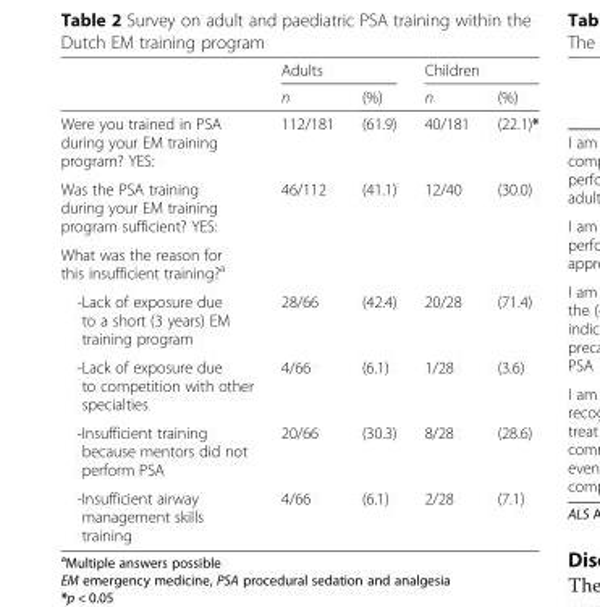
<table><thead><tr><td rowspan="2"></td><td colspan="2">Adults</td><td colspan="2">Children</td></tr><tr><td>n</td><td>(%)</td><td>n</td><td>(%)</td></tr></thead><tbody><tr><td>Were you trained in PSA during your EM training program? YES:</td><td>112/181</td><td>(61.9)</td><td>40/181</td><td>(22.1)*</td></tr><tr><td>Was the PSA training during your EM training program sufficient? YES:</td><td>46/112</td><td>(41.1)</td><td>12/40</td><td>(30.0)</td></tr><tr><td colspan="5">What was the reason for this insufficient training?<sup>a</sup></td></tr><tr><td>-Lack of exposure due to a short (3 years) EM training program</td><td>28/66</td><td>(42.4)</td><td>20/28</td><td>(71.4)</td></tr><tr><td>-Lack of exposure due to competition with other specialties</td><td>4/66</td><td>(6.1)</td><td>1/28</td><td>(3.6)</td></tr><tr><td>-Insufficient training because mentors did not perform PSA</td><td>20/66</td><td>(30.3)</td><td>8/28</td><td>(28.6)</td></tr><tr><td>-Insufficient airway management skills training</td><td>4/66</td><td>(6.1)</td><td>2/28</td><td>(7.1)</td></tr></tbody></table>